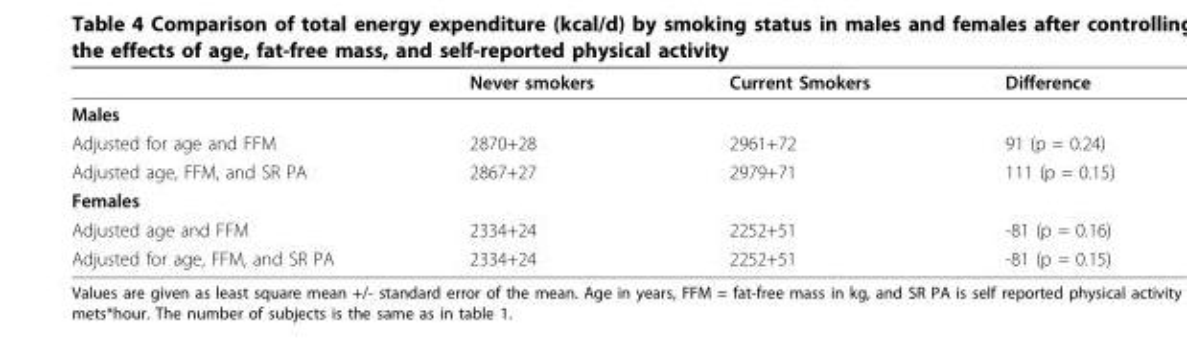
<table><thead><tr><td></td><td>Never smokers</td><td>Current Smokers</td><td>Difference</td></tr></thead><tbody><tr><td colspan="4">Males</td></tr><tr><td>Adjusted for age and FFM</td><td>2870+28</td><td>2961+72</td><td>91 (p = 0.24)</td></tr><tr><td>Adjusted age, FFM, and SR PA</td><td>2867+27</td><td>2979+71</td><td>111 (p = 0.15)</td></tr><tr><td colspan="4">Females</td></tr><tr><td>Adjusted age and FFM</td><td>2334+24</td><td>2252+51</td><td>-81 (p = 0.16)</td></tr><tr><td>Adjusted for age, FFM, and SR PA</td><td>2334+24</td><td>2252+51</td><td>-81 (p = 0.15)</td></tr></tbody></table>